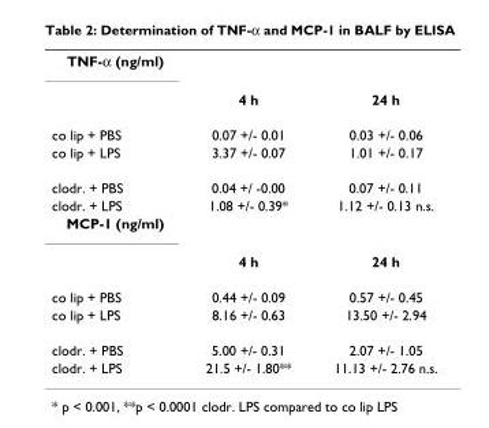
<table><tbody><tr><td colspan="3">TNF-α (ng/ml)</td></tr><tr><td></td><td>4 h</td><td>24 h</td></tr><tr><td>co lip + PBS</td><td>0.07 +/- 0.01</td><td>0.03 +/- 0.06</td></tr><tr><td>co lip + LPS</td><td>3.37 +/- 0.07</td><td>1.01 +/- 0.17</td></tr><tr><td>clodr. + PBS</td><td>0.04 +/ -0.00</td><td>0.07 +/- 0.11</td></tr><tr><td>clodr. + LPS</td><td>1.08 +/- 0.39*</td><td>1.12 +/- 0.13 n.s.</td></tr><tr><td colspan="3">MCP-1 (ng/ml)</td></tr><tr><td></td><td>4 h</td><td>24 h</td></tr><tr><td>co lip + PBS</td><td>0.44 +/- 0.09</td><td>0.57 +/- 0.45</td></tr><tr><td>co lip + LPS</td><td>8.16 +/- 0.63</td><td>13.50 +/- 2.94</td></tr><tr><td>clodr. + PBS</td><td>5.00 +/- 0.31</td><td>2.07 +/- 1.05</td></tr><tr><td>clodr. + LPS</td><td>21.5 +/- 1.80**</td><td>11.13 +/- 2.76 n.s.</td></tr></tbody></table>